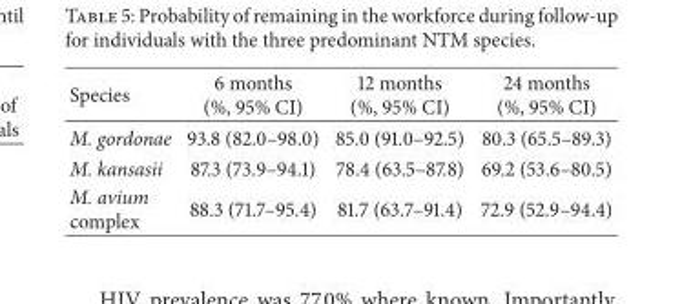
<table><thead><tr><td>Species</td><td>6 months (%, 95% CI)</td><td>12 months (%, 95% CI)</td><td>24 months (%, 95% CI)</td></tr></thead><tbody><tr><td>M. gordonae</td><td>93.8 (82.0–98.0)</td><td>85.0 (91.0–92.5)</td><td>80.3 (65.5–89.3)</td></tr><tr><td>M. kansasii</td><td>87.3 (73.9–94.1)</td><td>78.4 (63.5–87.8)</td><td>69.2 (53.6–80.5)</td></tr><tr><td>M. avium complex</td><td>88.3 (71.7–95.4)</td><td>81.7 (63.7–91.4)</td><td>72.9 (52.9–94.4)</td></tr></tbody></table>